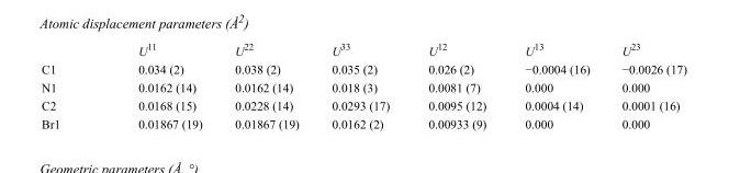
<table><thead><tr><td></td><td>U<sup>11</sup></td><td>U<sup>22</sup></td><td>U<sup>33</sup></td><td>U<sup>12</sup></td><td>U<sup>13</sup></td><td>U<sup>23</sup></td></tr></thead><tbody><tr><td>C1</td><td>0.034 (2)</td><td>0.038 (2)</td><td>0.035 (2)</td><td>0.026 (2)</td><td>−0.0004 (16)</td><td>−0.0026 (17)</td></tr><tr><td>N1</td><td>0.0162 (14)</td><td>0.0162 (14)</td><td>0.018 (3)</td><td>0.0081 (7)</td><td>0.000</td><td>0.000</td></tr><tr><td>C2</td><td>0.0168 (15)</td><td>0.0228 (14)</td><td>0.0293 (17)</td><td>0.0095 (12)</td><td>0.0004 (14)</td><td>0.0001 (16)</td></tr><tr><td>Br1</td><td>0.01867 (19)</td><td>0.01867 (19)</td><td>0.0162 (2)</td><td>0.00933 (9)</td><td>0.000</td><td>0.000</td></tr></tbody></table>